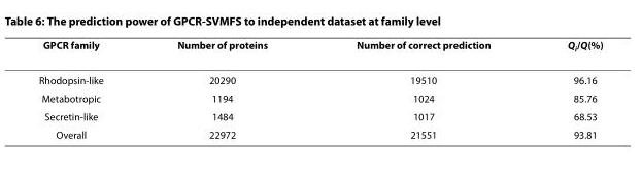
<table><thead><tr><td>GPCR family</td><td>Number of proteins</td><td>Number of correct prediction</td><td>Q<sub>i</sub>/Q(%)</td></tr></thead><tbody><tr><td>Rhodopsin-like</td><td>20290</td><td>19510</td><td>96.16</td></tr><tr><td>Metabotropic</td><td>1194</td><td>1024</td><td>85.76</td></tr><tr><td>Secretin-like</td><td>1484</td><td>1017</td><td>68.53</td></tr><tr><td>Overall</td><td>22972</td><td>21551</td><td>93.81</td></tr></tbody></table>